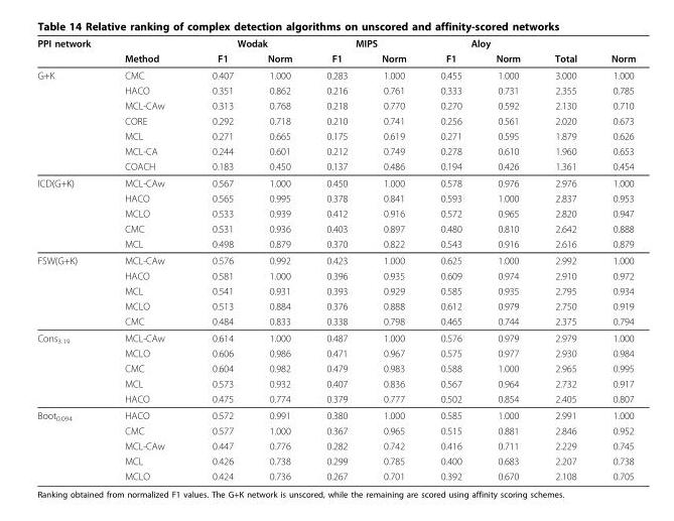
<table><thead><tr><td rowspan="2">PPI network</td><td rowspan="2">Method</td><td colspan="2">Wodak</td><td colspan="2">MIPS</td><td colspan="2">Aloy</td><td rowspan="2">Total</td><td rowspan="2">Norm</td></tr><tr><td>F1</td><td>Norm</td><td>F1</td><td>Norm</td><td>F1</td><td>Norm</td></tr></thead><tbody><tr><td rowspan="7">G+K</td><td>CMC</td><td>0.407</td><td>1.000</td><td>0.283</td><td>1.000</td><td>0.455</td><td>1.000</td><td>3.000</td><td>1.000</td></tr><tr><td>HACO</td><td>0.351</td><td>0.862</td><td>0.216</td><td>0.761</td><td>0.333</td><td>0.731</td><td>2.355</td><td>0.785</td></tr><tr><td>MCL-CAw</td><td>0.313</td><td>0.768</td><td>0.218</td><td>0.770</td><td>0.270</td><td>0.592</td><td>2.130</td><td>0.710</td></tr><tr><td>CORE</td><td>0.292</td><td>0.718</td><td>0.210</td><td>0.741</td><td>0.256</td><td>0.561</td><td>2.020</td><td>0.673</td></tr><tr><td>MCL</td><td>0.271</td><td>0.665</td><td>0.175</td><td>0.619</td><td>0.271</td><td>0.595</td><td>1.879</td><td>0.626</td></tr><tr><td>MCL-CA</td><td>0.244</td><td>0.601</td><td>0.212</td><td>0.749</td><td>0.278</td><td>0.610</td><td>1.960</td><td>0.653</td></tr><tr><td>COACH</td><td>0.183</td><td>0.450</td><td>0.137</td><td>0.486</td><td>0.194</td><td>0.426</td><td>1.361</td><td>0.454</td></tr><tr><td rowspan="5">ICD(G+K)</td><td>MCL-CAw</td><td>0.567</td><td>1.000</td><td>0.450</td><td>1.000</td><td>0.578</td><td>0.976</td><td>2.976</td><td>1.000</td></tr><tr><td>HACO</td><td>0.565</td><td>0.995</td><td>0.378</td><td>0.841</td><td>0.593</td><td>1.000</td><td>2.837</td><td>0.953</td></tr><tr><td>MCLO</td><td>0.533</td><td>0.939</td><td>0.412</td><td>0.916</td><td>0.572</td><td>0.965</td><td>2.820</td><td>0.947</td></tr><tr><td>CMC</td><td>0.531</td><td>0.936</td><td>0.403</td><td>0.897</td><td>0.480</td><td>0.810</td><td>2.642</td><td>0.888</td></tr><tr><td>MCL</td><td>0.498</td><td>0.879</td><td>0.370</td><td>0.822</td><td>0.543</td><td>0.916</td><td>2.616</td><td>0.879</td></tr><tr><td rowspan="5">FSW(G+K)</td><td>MCL-CAw</td><td>0.576</td><td>0.992</td><td>0.423</td><td>1.000</td><td>0.625</td><td>1.000</td><td>2.992</td><td>1.000</td></tr><tr><td>HACO</td><td>0.581</td><td>1.000</td><td>0.396</td><td>0.935</td><td>0.609</td><td>0.974</td><td>2.910</td><td>0.972</td></tr><tr><td>MCL</td><td>0.541</td><td>0.931</td><td>0.393</td><td>0.929</td><td>0.585</td><td>0.935</td><td>2.795</td><td>0.934</td></tr><tr><td>MCLO</td><td>0.513</td><td>0.884</td><td>0.376</td><td>0.888</td><td>0.612</td><td>0.979</td><td>2.750</td><td>0.919</td></tr><tr><td>CMC</td><td>0.484</td><td>0.833</td><td>0.338</td><td>0.798</td><td>0.465</td><td>0.744</td><td>2.375</td><td>0.794</td></tr><tr><td rowspan="5">Cons<sub>3.19</sub></td><td>MCL-CAw</td><td>0.614</td><td>1.000</td><td>0.487</td><td>1.000</td><td>0.576</td><td>0.979</td><td>2.979</td><td>1.000</td></tr><tr><td>MCLO</td><td>0.606</td><td>0.986</td><td>0.471</td><td>0.967</td><td>0.575</td><td>0.977</td><td>2.930</td><td>0.984</td></tr><tr><td>CMC</td><td>0.604</td><td>0.982</td><td>0.479</td><td>0.983</td><td>0.588</td><td>1.000</td><td>2.965</td><td>0.995</td></tr><tr><td>MCL</td><td>0.573</td><td>0.932</td><td>0.407</td><td>0.836</td><td>0.567</td><td>0.964</td><td>2.732</td><td>0.917</td></tr><tr><td>HACO</td><td>0.475</td><td>0.774</td><td>0.379</td><td>0.777</td><td>0.502</td><td>0.854</td><td>2.405</td><td>0.807</td></tr><tr><td rowspan="5">Boot<sub>0.094</sub></td><td>HACO</td><td>0.572</td><td>0.991</td><td>0.380</td><td>1.000</td><td>0.585</td><td>1.000</td><td>2.991</td><td>1.000</td></tr><tr><td>CMC</td><td>0.577</td><td>1.000</td><td>0.367</td><td>0.965</td><td>0.515</td><td>0.881</td><td>2.846</td><td>0.952</td></tr><tr><td>MCL-CAw</td><td>0.447</td><td>0.776</td><td>0.282</td><td>0.742</td><td>0.416</td><td>0.711</td><td>2.229</td><td>0.745</td></tr><tr><td>MCL</td><td>0.426</td><td>0.738</td><td>0.299</td><td>0.785</td><td>0.400</td><td>0.683</td><td>2.207</td><td>0.738</td></tr><tr><td>MCLO</td><td>0.424</td><td>0.736</td><td>0.267</td><td>0.701</td><td>0.392</td><td>0.670</td><td>2.108</td><td>0.705</td></tr></tbody></table>